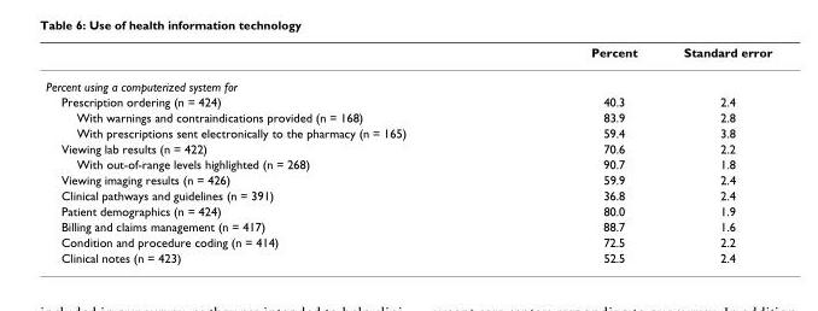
<table><thead><tr><td></td><td>Percent</td><td>Standard error</td></tr></thead><tbody><tr><td colspan="3">Percent using a computerized system for</td></tr><tr><td>Prescription ordering (n = 424)</td><td>40.3</td><td>2.4</td></tr><tr><td>With warnings and contraindications provided (n = 168)</td><td>83.9</td><td>2.8</td></tr><tr><td>With prescriptions sent electronically to the pharmacy (n = 165)</td><td>59.4</td><td>3.8</td></tr><tr><td>Viewing lab results (n = 422)</td><td>70.6</td><td>2.2</td></tr><tr><td>With out-of-range levels highlighted (n = 268)</td><td>90.7</td><td>1.8</td></tr><tr><td>Viewing imaging results (n = 426)</td><td>59.9</td><td>2.4</td></tr><tr><td>Clinical pathways and guidelines (n = 391)</td><td>36.8</td><td>2.4</td></tr><tr><td>Patient demographics (n = 424)</td><td>80.0</td><td>1.9</td></tr><tr><td>Billing and claims management (n = 417)</td><td>88.7</td><td>1.6</td></tr><tr><td>Condition and procedure coding (n = 414)</td><td>72.5</td><td>2.2</td></tr><tr><td>Clinical notes (n = 423)</td><td>52.5</td><td>2.4</td></tr></tbody></table>